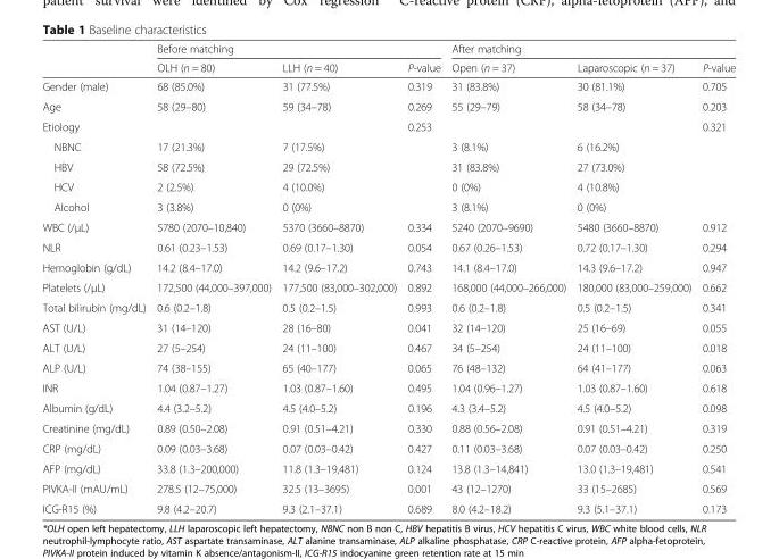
<table><thead><tr><td rowspan="2"></td><td colspan="3">Before matching</td><td colspan="3">After matching</td></tr><tr><td>OLH (n = 80)</td><td>LLH (n = 40)</td><td>P-value</td><td>Open (n = 37)</td><td>Laparoscopic (n = 37)</td><td>P-value</td></tr></thead><tbody><tr><td>Gender (male)</td><td>68 (85.0%)</td><td>31 (77.5%)</td><td>0.319</td><td>31 (83.8%)</td><td>30 (81.1%)</td><td>0.705</td></tr><tr><td>Age</td><td>58 (29–80)</td><td>59 (34–78)</td><td>0.269</td><td>55 (29–79)</td><td>58 (34–78)</td><td>0.203</td></tr><tr><td>Etiology</td><td></td><td></td><td>0.253</td><td></td><td></td><td>0.321</td></tr><tr><td>NBNC</td><td>17 (21.3%)</td><td>7 (17.5%)</td><td></td><td>3 (8.1%)</td><td>6 (16.2%)</td><td></td></tr><tr><td>HBV</td><td>58 (72.5%)</td><td>29 (72.5%)</td><td></td><td>31 (83.8%)</td><td>27 (73.0%)</td><td></td></tr><tr><td>HCV</td><td>2 (2.5%)</td><td>4 (10.0%)</td><td></td><td>0 (0%)</td><td>4 (10.8%)</td><td></td></tr><tr><td>Alcohol</td><td>3 (3.8%)</td><td>0 (0%)</td><td></td><td>3 (8.1%)</td><td>0 (0%)</td><td></td></tr><tr><td>WBC (/μL)</td><td>5780 (2070–10,840)</td><td>5370 (3660–8870)</td><td>0.334</td><td>5240 (2070–9690)</td><td>5480 (3660–8870)</td><td>0.912</td></tr><tr><td>NLR</td><td>0.61 (0.23–1.53)</td><td>0.69 (0.17–1.30)</td><td>0.054</td><td>0.67 (0.26–1.53)</td><td>0.72 (0.17–1.30)</td><td>0.294</td></tr><tr><td>Hemoglobin (g/dL)</td><td>14.2 (8.4–17.0)</td><td>14.2 (9.6–17.2)</td><td>0.743</td><td>14.1 (8.4–17.0)</td><td>14.3 (9.6–17.2)</td><td>0.947</td></tr><tr><td>Platelets (/μL)</td><td>172,500 (44,000–397,000)</td><td>177,500 (83,000–302,000)</td><td>0.892</td><td>168,000 (44,000–266,000)</td><td>180,000 (83,000–259,000)</td><td>0.662</td></tr><tr><td>Total bilirubin (mg/dL)</td><td>0.6 (0.2–1.8)</td><td>0.5 (0.2–1.5)</td><td>0.993</td><td>0.6 (0.2–1.8)</td><td>0.5 (0.2–1.5)</td><td>0.341</td></tr><tr><td>AST (U/L)</td><td>31 (14–120)</td><td>28 (16–80)</td><td>0.041</td><td>32 (14–120)</td><td>25 (16–69)</td><td>0.055</td></tr><tr><td>ALT (U/L)</td><td>27 (5–254)</td><td>24 (11–100)</td><td>0.467</td><td>34 (5–254)</td><td>24 (11–100)</td><td>0.018</td></tr><tr><td>ALP (U/L)</td><td>74 (38–155)</td><td>65 (40–177)</td><td>0.065</td><td>76 (48–132)</td><td>64 (41–177)</td><td>0.063</td></tr><tr><td>INR</td><td>1.04 (0.87–1.27)</td><td>1.03 (0.87–1.60)</td><td>0.495</td><td>1.04 (0.96–1.27)</td><td>1.03 (0.87–1.60)</td><td>0.618</td></tr><tr><td>Albumin (g/dL)</td><td>4.4 (3.2–5.2)</td><td>4.5 (4.0–5.2)</td><td>0.196</td><td>4.3 (3.4–5.2)</td><td>4.5 (4.0–5.2)</td><td>0.098</td></tr><tr><td>Creatinine (mg/dL)</td><td>0.89 (0.50–2.08)</td><td>0.91 (0.51–4.21)</td><td>0.330</td><td>0.88 (0.56–2.08)</td><td>0.91 (0.51–4.21)</td><td>0.319</td></tr><tr><td>CRP (mg/dL)</td><td>0.09 (0.03–3.68)</td><td>0.07 (0.03–0.42)</td><td>0.427</td><td>0.11 (0.03–3.68)</td><td>0.07 (0.03–0.42)</td><td>0.250</td></tr><tr><td>AFP (mg/dL)</td><td>33.8 (1.3–200,000)</td><td>11.8 (1.3–19,481)</td><td>0.124</td><td>13.8 (1.3–14,841)</td><td>13.0 (1.3–19,481)</td><td>0.541</td></tr><tr><td>PIVKA-II (mAU/mL)</td><td>278.5 (12–75,000)</td><td>32.5 (13–3695)</td><td>0.001</td><td>43 (12–1270)</td><td>33 (15–2685)</td><td>0.569</td></tr><tr><td>ICG-R15 (%)</td><td>9.8 (4.2–20.7)</td><td>9.3 (2.1–37.1)</td><td>0.689</td><td>8.0 (4.2–18.2)</td><td>9.3 (5.1–37.1)</td><td>0.173</td></tr></tbody></table>